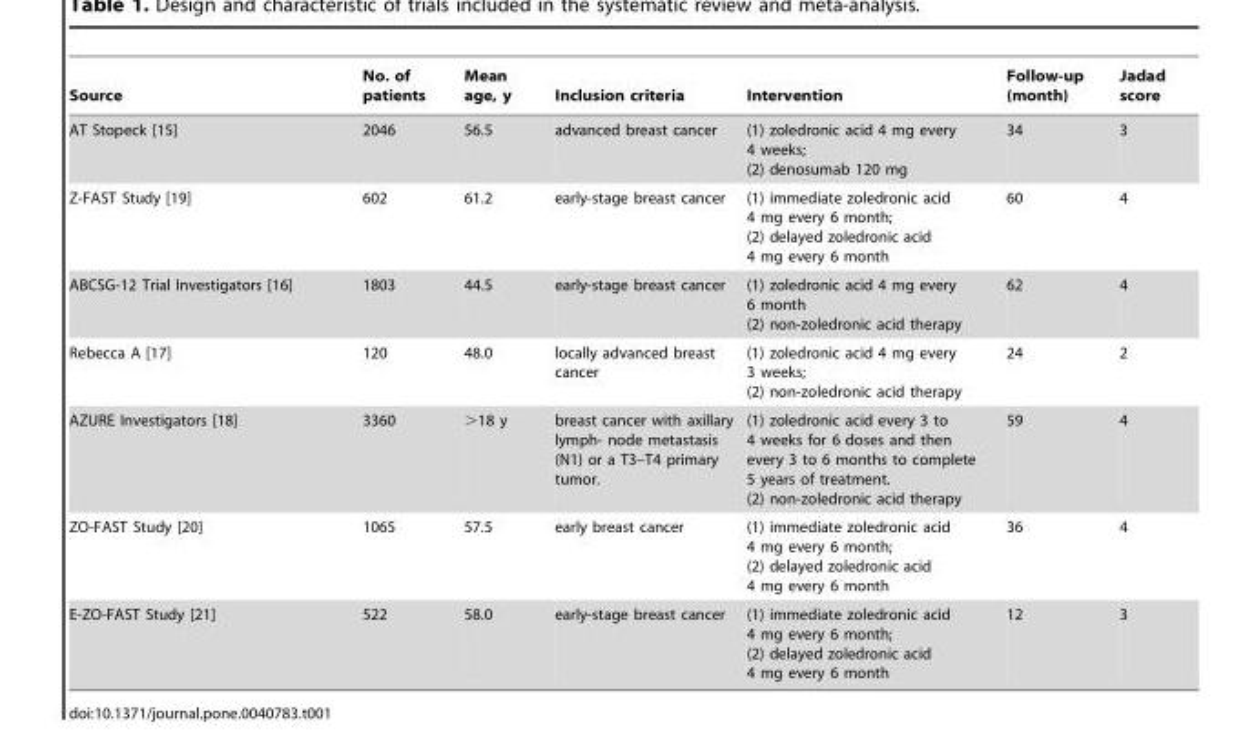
<table><thead><tr><td>Source</td><td>No. of patients</td><td>Mean age, y</td><td>Inclusion criteria</td><td>Intervention</td><td>Follow-up (month)</td><td>Jadad score</td></tr></thead><tbody><tr><td>AT Stopeck [15]</td><td>2046</td><td>56.5</td><td>advanced breast cancer</td><td>(1) zoledronic acid 4 mg every 4 weeks; (2) denosumab 120 mg</td><td>34</td><td>3</td></tr><tr><td>Z-FAST Study [19]</td><td>602</td><td>61.2</td><td>early-stage breast cancer</td><td>(1) immediate zoledronic acid 4 mg every 6 month; (2) delayed zoledronic acid 4 mg every 6 month</td><td>60</td><td>4</td></tr><tr><td>ABCSG-12 Trial Investigators [16]</td><td>1803</td><td>44.5</td><td>early-stage breast cancer</td><td>(1) zoledronic acid 4 mg every 6 month (2) non-zoledronic acid therapy</td><td>62</td><td>4</td></tr><tr><td>Rebecca A [17]</td><td>120</td><td>48.0</td><td>locally advanced breast cancer</td><td>(1) zoledronic acid 4 mg every 3 weeks; (2) non-zoledronic acid therapy</td><td>24</td><td>2</td></tr><tr><td>AZURE Investigators [18]</td><td>3360</td><td>&gt;18 y</td><td>breast cancer with axillary lymph- node metastasis (N1) or a T3–T4 primary tumor.</td><td>(1) zoledronic acid every 3 to 4 weeks for 6 doses and then every 3 to 6 months to complete 5 years of treatment. (2) non-zoledronic acid therapy</td><td>59</td><td>4</td></tr><tr><td>ZO-FAST Study [20]</td><td>1065</td><td>57.5</td><td>early breast cancer</td><td>(1) immediate zoledronic acid 4 mg every 6 month; (2) delayed zoledronic acid 4 mg every 6 month</td><td>36</td><td>4</td></tr><tr><td>E-ZO-FAST Study [21]</td><td>522</td><td>58.0</td><td>early-stage breast cancer</td><td>(1) immediate zoledronic acid 4 mg every 6 month; (2) delayed zoledronic acid 4 mg every 6 month</td><td>12</td><td>3</td></tr></tbody></table>